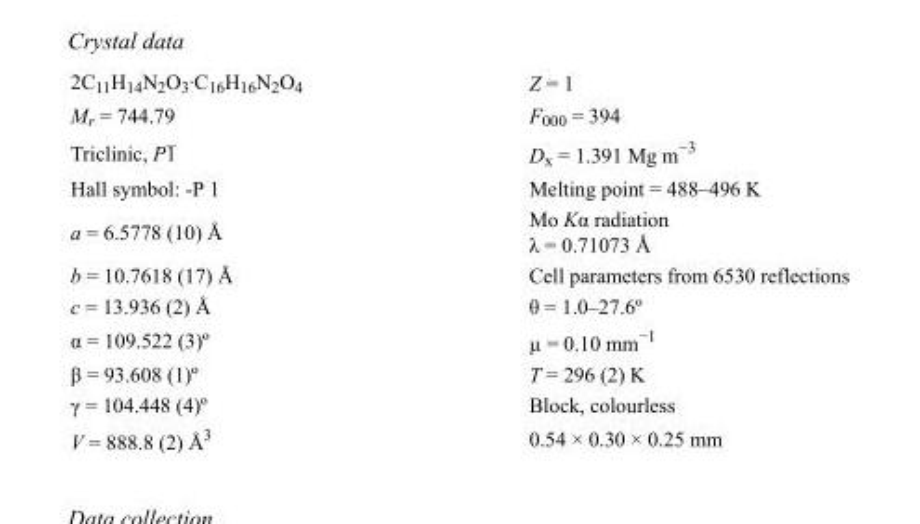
<table><tbody><tr><td>2C<sub>11</sub>H<sub>14</sub>N<sub>2</sub>O<sub>3</sub>·C<sub>16</sub>H<sub>16</sub>N<sub>2</sub>O<sub>4</sub></td><td>Z = 1</td></tr><tr><td>M<sub>r</sub> = 744.79</td><td>F000 = 394</td></tr><tr><td>Triclinic, P1</td><td>D<sub>x</sub> = 1.391 Mg m<sup>−3</sup></td></tr><tr><td>Hall symbol: -P 1</td><td>Melting point = 488–496 K</td></tr><tr><td>a = 6.5778 (10) Å</td><td>Mo Kα radiation λ = 0.71073 Å</td></tr><tr><td>b = 10.7618 (17) Å</td><td>Cell parameters from 6530 reflections</td></tr><tr><td>c = 13.936 (2) Å</td><td>θ = 1.0–27.6º</td></tr><tr><td>α = 109.522 (3)º</td><td>µ = 0.10 mm<sup>−1</sup></td></tr><tr><td>β = 93.608 (1)º</td><td>T = 296 (2) K</td></tr><tr><td>γ = 104.448 (4)º</td><td>Block, colourless</td></tr><tr><td>V = 888.8 (2) Å<sup>3</sup></td><td>0.54 × 0.30 × 0.25 mm</td></tr></tbody></table>